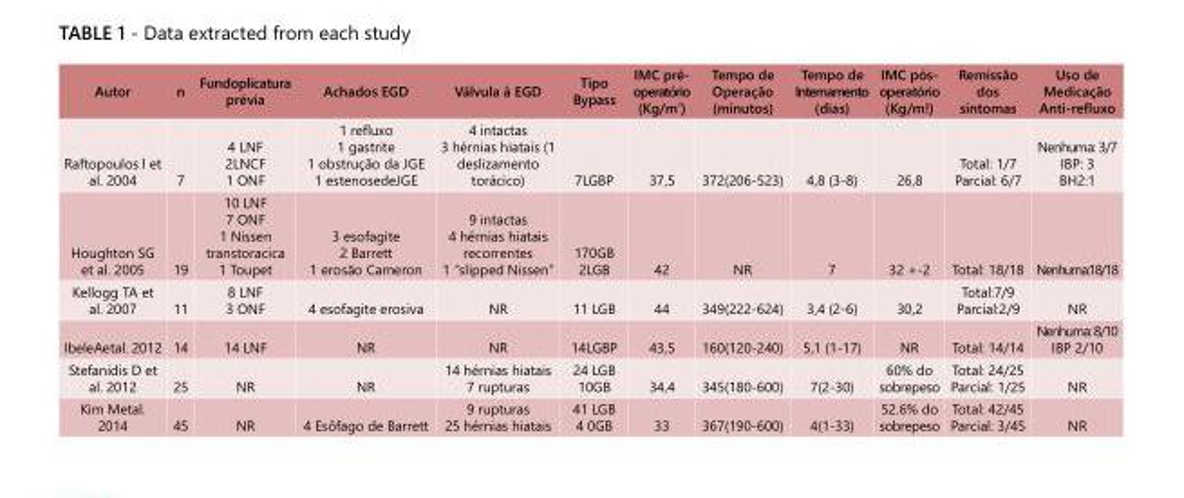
<table><tbody><tr><td>Autor</td><td>n</td><td>Fundoplicatura prévia</td><td>Achados EGD</td><td>Válvula à EGD</td><td>Tipo Bypass</td><td>IMC pré- operatório (Kg/m’)</td><td>Tempo de Operação (minutos)</td><td>Tempo de Internamento (dias)</td><td>IMC pós- operatório (Kg/m!)</td><td>Remissão dos sintomas</td><td>Uso de Medicação Anti-refluxo</td></tr><tr><td>Raftopoulos l et al. 2004</td><td>7</td><td>4 LNF 2LNCF 1 ONF</td><td>1 refluxo 1 gastrite 1 obstrução da JGE 1 estenosedeJGE</td><td>4 intactas 3 hérnias hiatais (1 deslizamento torácico)</td><td>7LGBP</td><td>37,5</td><td>372(206-523)</td><td>4,8 (3-8)</td><td>26,8</td><td>Total: 1/7 Parcial: 6/7</td><td>Nenhuma: 3/7 IBP: 3 BH2:1</td></tr><tr><td>Houghton SG et al. 2005</td><td>19</td><td>10 LNF 7 ONF 1 Nissen transtoracica 1 Toupet</td><td>3 esofagite 2 Barrett 1 erosão Cameron</td><td>9 intactas 4 hérnias hiatais recorrentes 1 “slipped Nissen”</td><td>170GB 2LGB</td><td>42</td><td>NR</td><td>7</td><td>32 +-2</td><td>Total: 18/18</td><td>Nenhuma:18/18</td></tr><tr><td>Kellogg TA et al. 2007</td><td>11</td><td>8 LNF 3 ONF</td><td>4 esofagite erosiva</td><td>NR</td><td>11 LGB</td><td>44</td><td>349(222-624)</td><td>3,4 (2-6)</td><td>30,2</td><td>Total:7/9 Parcial:2/9</td><td>NR</td></tr><tr><td>IbeleAetal. 2012</td><td>14</td><td>14 LNF</td><td>NR</td><td>NR</td><td>14LGBP</td><td>43,5</td><td>160(120-240)</td><td>5,1 (1-17)</td><td>NR</td><td>Total: 14/14</td><td>Nenhuma: 8/10 IBP 2/10</td></tr><tr><td>Stefanidis D et al. 2012</td><td>25</td><td>NR</td><td>NR</td><td>14 hérnias hiatais 7 rupturas</td><td>24 LGB 10GB</td><td>34,4</td><td>345(180-600)</td><td>7(2-30)</td><td>60% do sobrepeso</td><td>Total: 24/25 Parcial: 1/25</td><td>NR</td></tr><tr><td>Kim Metal. 2014</td><td>45</td><td>NR</td><td>4 Esôfago de Barrett</td><td>9 rupturas 25 hérnias hiatais</td><td>41 LGB 4 0GB</td><td>33</td><td>367(190-600)</td><td>4(1-33)</td><td>52.6% do sobrepeso</td><td>Total: 42/45 Parcial: 3/45</td><td>NR</td></tr></tbody></table>